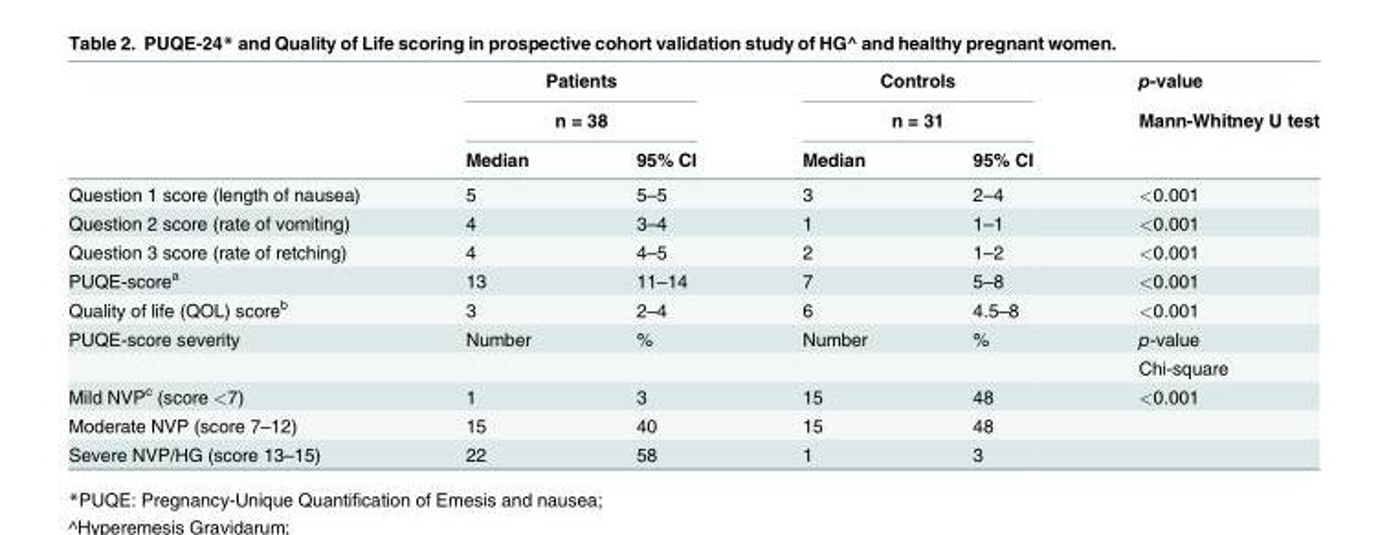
<table><thead><tr><td rowspan="3"></td><td rowspan="2" colspan="2">Patients n = 38</td><td rowspan="2" colspan="2">Controls n = 31</td><td rowspan="3">p-value Mann-Whitney U test</td></tr><tr></tr><tr><td>Median</td><td>95% CI</td><td>Median</td><td>95% CI</td></tr></thead><tbody><tr><td>Question 1 score (length of nausea)</td><td>5</td><td>5–5</td><td>3</td><td>2–4</td><td>&lt;0.001</td></tr><tr><td>Question 2 score (rate of vomiting)</td><td>4</td><td>3–4</td><td>1</td><td>1–1</td><td>&lt;0.001</td></tr><tr><td>Question 3 score (rate of retching)</td><td>4</td><td>4–5</td><td>2</td><td>1–2</td><td>&lt;0.001</td></tr><tr><td>PUQE-score<sup>a</sup></td><td>13</td><td>11–14</td><td>7</td><td>5–8</td><td>&lt;0.001</td></tr><tr><td>Quality of life (QOL) score<sup>b</sup></td><td>3</td><td>2–4</td><td>6</td><td>4.5–8</td><td>&lt;0.001</td></tr><tr><td rowspan="2">PUQE-score severity</td><td>Number</td><td>%</td><td>Number</td><td>%</td><td>p-value</td></tr><tr><td></td><td></td><td></td><td></td><td>Chi-square</td></tr><tr><td>Mild NVP<sup>c</sup> (score &lt;7)</td><td>1</td><td>3</td><td>15</td><td>48</td><td>&lt;0.001</td></tr><tr><td>Moderate NVP (score 7–12)</td><td>15</td><td>40</td><td>15</td><td>48</td><td></td></tr><tr><td>Severe NVP/HG (score 13–15)</td><td>22</td><td>58</td><td>1</td><td>3</td><td></td></tr></tbody></table>